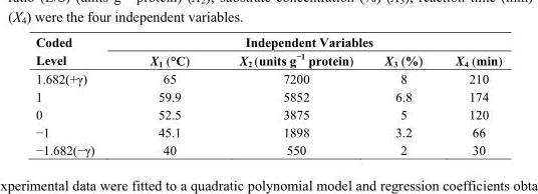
<table><thead><tr><td rowspan="2">Coded Level</td><td colspan="4">Independent Variables</td></tr><tr><td>X<sub>1</sub> (°C)</td><td>X<sub>2</sub> (units g<sup>−1</sup> protein)</td><td>X<sub>3</sub> (%)</td><td>X<sub>4</sub> (min)</td></tr></thead><tbody><tr><td>1.682(+γ)</td><td>65</td><td>7200</td><td>8</td><td>210</td></tr><tr><td>1</td><td>59.9</td><td>5852</td><td>6.8</td><td>174</td></tr><tr><td>0</td><td>52.5</td><td>3875</td><td>5</td><td>120</td></tr><tr><td>−1</td><td>45.1</td><td>1898</td><td>3.2</td><td>66</td></tr><tr><td>−1.682(−γ)</td><td>40</td><td>550</td><td>2</td><td>30</td></tr></tbody></table>